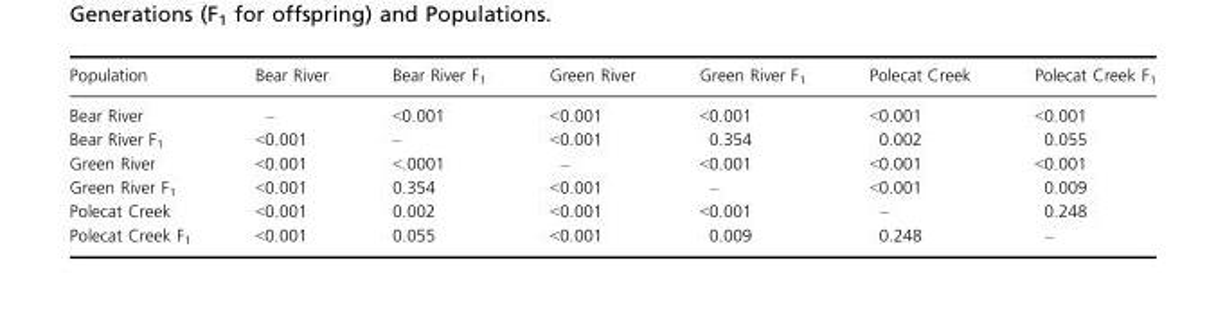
<table><thead><tr><td>Population</td><td>Bear River</td><td>Bear River F<sub>1</sub></td><td>Green River</td><td>Green River F<sub>1</sub></td><td>Polecat Creek</td><td>Polecat Creek F<sub>1</sub></td></tr></thead><tbody><tr><td>Bear River</td><td>–</td><td>&lt;0.001</td><td>&lt;0.001</td><td>&lt;0.001</td><td>&lt;0.001</td><td>&lt;0.001</td></tr><tr><td>Bear River F<sub>1</sub></td><td>&lt;0.001</td><td>–</td><td>&lt;0.001</td><td>0.354</td><td>0.002</td><td>0.055</td></tr><tr><td>Green River</td><td>&lt;0.001</td><td>&lt;.0001</td><td>–</td><td>&lt;0.001</td><td>&lt;0.001</td><td>&lt;0.001</td></tr><tr><td>Green River F<sub>1</sub></td><td>&lt;0.001</td><td>0.354</td><td>&lt;0.001</td><td>–</td><td>&lt;0.001</td><td>0.009</td></tr><tr><td>Polecat Creek</td><td>&lt;0.001</td><td>0.002</td><td>&lt;0.001</td><td>&lt;0.001</td><td>–</td><td>0.248</td></tr><tr><td>Polecat Creek F<sub>1</sub></td><td>&lt;0.001</td><td>0.055</td><td>&lt;0.001</td><td>0.009</td><td>0.248</td><td>–</td></tr></tbody></table>